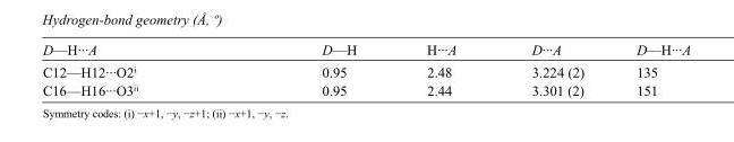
<table><tbody><tr><td>D—H···A</td><td>D—H</td><td>H···A</td><td>D···A</td><td>D—H···A</td></tr><tr><td>C12—H12···O2<sup>i</sup></td><td>0.95</td><td>2.48</td><td>3.224 (2)</td><td>135</td></tr><tr><td>C16—H16···O3<sup>ii</sup></td><td>0.95</td><td>2.44</td><td>3.301 (2)</td><td>151</td></tr></tbody></table>